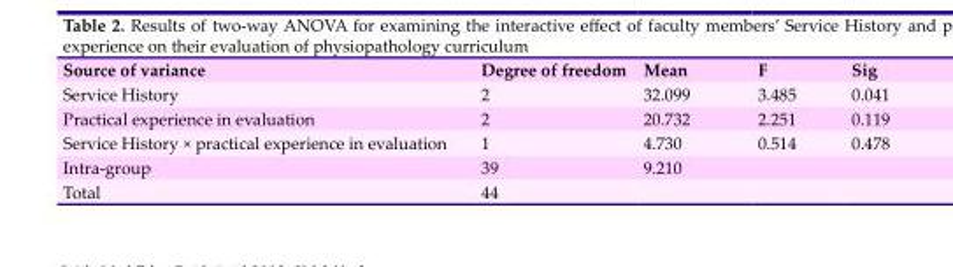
<table><thead><tr><td>Source of variance</td><td>Degree of freedom</td><td>Mean</td><td>F</td><td>Sig</td></tr></thead><tbody><tr><td>Service History</td><td>2</td><td>32.099</td><td>3.485</td><td>0.041</td></tr><tr><td>Practical experience in evaluation</td><td>2</td><td>20.732</td><td>2.251</td><td>0.119</td></tr><tr><td>Service History × practical experience in evaluation</td><td>1</td><td>4.730</td><td>0.514</td><td>0.478</td></tr><tr><td>Intra-group</td><td>39</td><td>9.210</td><td></td><td></td></tr><tr><td>Total</td><td>44</td><td></td><td></td><td></td></tr></tbody></table>